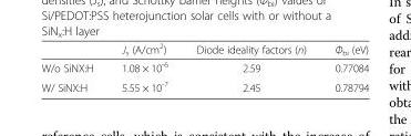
<table><thead><tr><td></td><td>J<sub>s</sub> (A/cm<sup>2</sup>)</td><td>Diode ideality factors (n)</td><td>Φ<sub>bi</sub> (eV)</td></tr></thead><tbody><tr><td>W/o SiNX:H</td><td>1.08 × 10<sup>-6</sup></td><td>2.59</td><td>0.77084</td></tr><tr><td>W/ SiNX:H</td><td>5.55 × 10<sup>-7</sup></td><td>2.45</td><td>0.78794</td></tr></tbody></table>